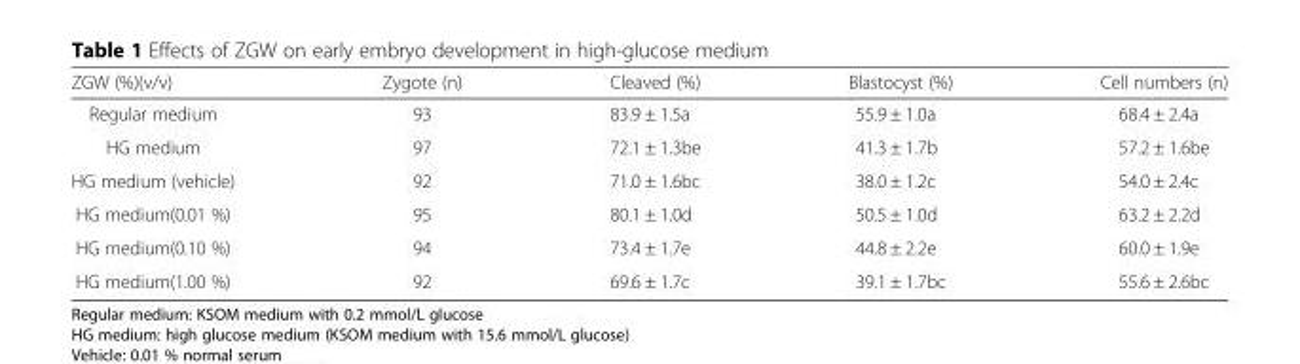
<table><thead><tr><td>ZGW (%)(v/v)</td><td>Zygote (n)</td><td>Cleaved (%)</td><td>Blastocyst (%)</td><td>Cell numbers (n)</td></tr></thead><tbody><tr><td>Regular medium</td><td>93</td><td>83.9 ± 1.5a</td><td>55.9 ± 1.0a</td><td>68.4 ± 2.4a</td></tr><tr><td>HG medium</td><td>97</td><td>72.1 ± 1.3be</td><td>41.3 ± 1.7b</td><td>57.2 ± 1.6be</td></tr><tr><td>HG medium (vehicle)</td><td>92</td><td>71.0 ± 1.6bc</td><td>38.0 ± 1.2c</td><td>54.0 ± 2.4c</td></tr><tr><td>HG medium(0.01 %)</td><td>95</td><td>80.1 ± 1.0d</td><td>50.5 ± 1.0d</td><td>63.2 ± 2.2d</td></tr><tr><td>HG medium(0.10 %)</td><td>94</td><td>73.4 ± 1.7e</td><td>44.8 ± 2.2e</td><td>60.0 ± 1.9e</td></tr><tr><td>HG medium(1.00 %)</td><td>92</td><td>69.6 ± 1.7c</td><td>39.1 ± 1.7bc</td><td>55.6 ± 2.6bc</td></tr></tbody></table>